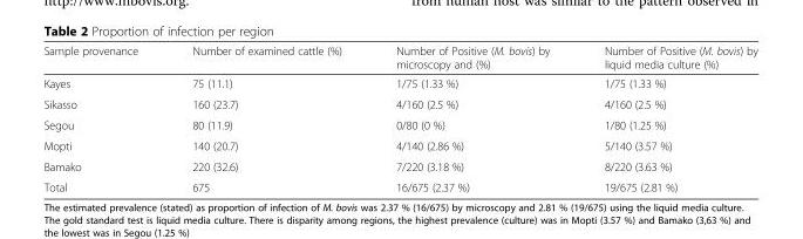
<table><thead><tr><td>Sample provenance</td><td>Number of examined cattle (%)</td><td>Number of Positive (M. bovis) by microscopy and (%)</td><td>Number of Positive (M. bovis) by liquid media culture (%)</td></tr></thead><tbody><tr><td>Kayes</td><td>75 (11.1)</td><td>1/75 (1.33 %)</td><td>1/75 (1.33 %)</td></tr><tr><td>Sikasso</td><td>160 (23.7)</td><td>4/160 (2.5 %)</td><td>4/160 (2.5 %)</td></tr><tr><td>Segou</td><td>80 (11.9)</td><td>0/80 (0 %)</td><td>1/80 (1.25 %)</td></tr><tr><td>Mopti</td><td>140 (20.7)</td><td>4/140 (2.86 %)</td><td>5/140 (3.57 %)</td></tr><tr><td>Bamako</td><td>220 (32.6)</td><td>7/220 (3.18 %)</td><td>8/220 (3.63 %)</td></tr><tr><td>Total</td><td>675</td><td>16/675 (2.37 %)</td><td>19/675 (2.81 %)</td></tr></tbody></table>